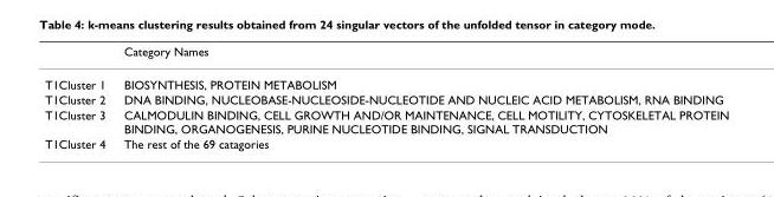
<table><thead><tr><td></td><td>Category Names</td></tr></thead><tbody><tr><td>T1Cluster 1</td><td>BIOSYNTHESIS, PROTEIN METABOLISM</td></tr><tr><td>T1Cluster 2</td><td>DNA BINDING, NUCLEOBASE-NUCLEOSIDE-NUCLEOTIDE AND NUCLEIC ACID METABOLISM, RNA BINDING</td></tr><tr><td>T1Cluster 3</td><td>CALMODULIN BINDING, CELL GROWTH AND/OR MAINTENANCE, CELL MOTILITY, CYTOSKELETAL PROTEIN BINDING, ORGANOGENESIS, PURINE NUCLEOTIDE BINDING, SIGNAL TRANSDUCTION</td></tr><tr><td>T1Cluster 4</td><td>The rest of the 69 catagories</td></tr></tbody></table>